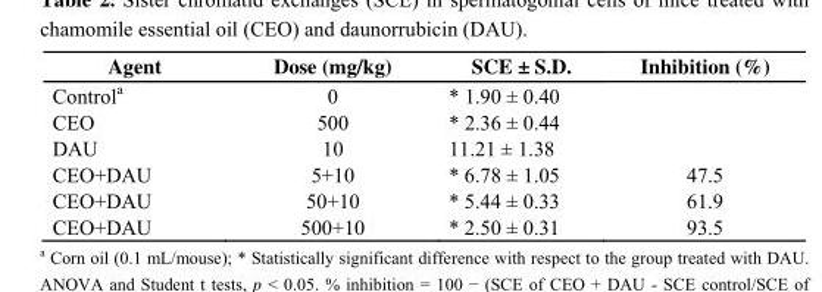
<table><thead><tr><td>Agent</td><td>Dose (mg/kg)</td><td>SCE ± S.D.</td><td>Inhibition (%)</td></tr></thead><tbody><tr><td>Control<sup>a</sup></td><td>0</td><td>* 1.90 ± 0.40</td><td></td></tr><tr><td>CEO</td><td>500</td><td>* 2.36 ± 0.44</td><td></td></tr><tr><td>DAU</td><td>10</td><td>11.21 ± 1.38</td><td></td></tr><tr><td>CEO+DAU</td><td>5+10</td><td>* 6.78 ± 1.05</td><td>47.5</td></tr><tr><td>CEO+DAU</td><td>50+10</td><td>* 5.44 ± 0.33</td><td>61.9</td></tr><tr><td>CEO+DAU</td><td>500+10</td><td>* 2.50 ± 0.31</td><td>93.5</td></tr></tbody></table>